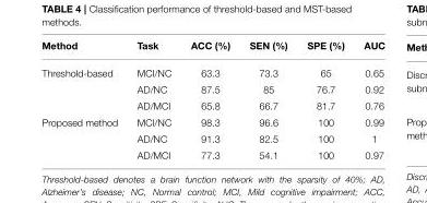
<table><thead><tr><td>Method</td><td>Task</td><td>ACC (%)</td><td>SEN (%)</td><td>SPE (%)</td><td>AUC</td></tr></thead><tbody><tr><td rowspan="3">Threshold-based</td><td>MCI/NC</td><td>63.3</td><td>73.3</td><td>65</td><td>0.65</td></tr><tr><td>AD/NC</td><td>87.5</td><td>85</td><td>76.7</td><td>0.92</td></tr><tr><td>AD/MCI</td><td>65.8</td><td>66.7</td><td>81.7</td><td>0.76</td></tr><tr><td rowspan="3">Proposed method</td><td>MCI/NC</td><td>98.3</td><td>96.6</td><td>100</td><td>0.99</td></tr><tr><td>AD/NC</td><td>91.3</td><td>82.5</td><td>100</td><td>1</td></tr><tr><td>AD/MCI</td><td>77.3</td><td>54.1</td><td>100</td><td>0.97</td></tr></tbody></table>